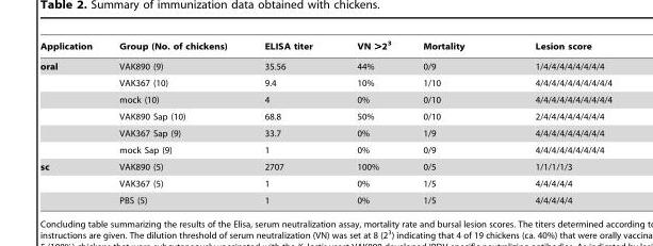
<table><thead><tr><td>Application</td><td>Group (No. of chickens)</td><td>ELISA titer</td><td>VN &gt;2<sup>3</sup></td><td>Mortality</td><td>Lesion score</td></tr></thead><tbody><tr><td rowspan="6">oral</td><td>VAK890 (9)</td><td>35.56</td><td>44%</td><td>0/9</td><td>1/4/4/4/4/4/4/4/4</td></tr><tr><td>VAK367 (10)</td><td>9.4</td><td>10%</td><td>1/10</td><td>4/4/4/4/4/4/4/4/4/4</td></tr><tr><td>mock (10)</td><td>4</td><td>0%</td><td>0/10</td><td>4/4/4/4/4/4/4/4/4/4</td></tr><tr><td>VAK890 Sap (10)</td><td>68.8</td><td>50%</td><td>0/10</td><td>2/4/4/4/4/4/4/4/4</td></tr><tr><td>VAK367 Sap (9)</td><td>33.7</td><td>0%</td><td>1/9</td><td>4/4/4/4/4/4/4/4/4</td></tr><tr><td>mock Sap (9)</td><td>1</td><td>0%</td><td>0/9</td><td>4/4/4/4/4/4/4/4/4</td></tr><tr><td rowspan="3">sc</td><td>VAK890 (5)</td><td>2707</td><td>100%</td><td>0/5</td><td>1/1/1/1/3</td></tr><tr><td>VAK367 (5)</td><td>1</td><td>0%</td><td>1/5</td><td>4/4/4/4/4</td></tr><tr><td>PBS (5)</td><td>1</td><td>0%</td><td>1/5</td><td>4/4/4/4/4</td></tr></tbody></table>